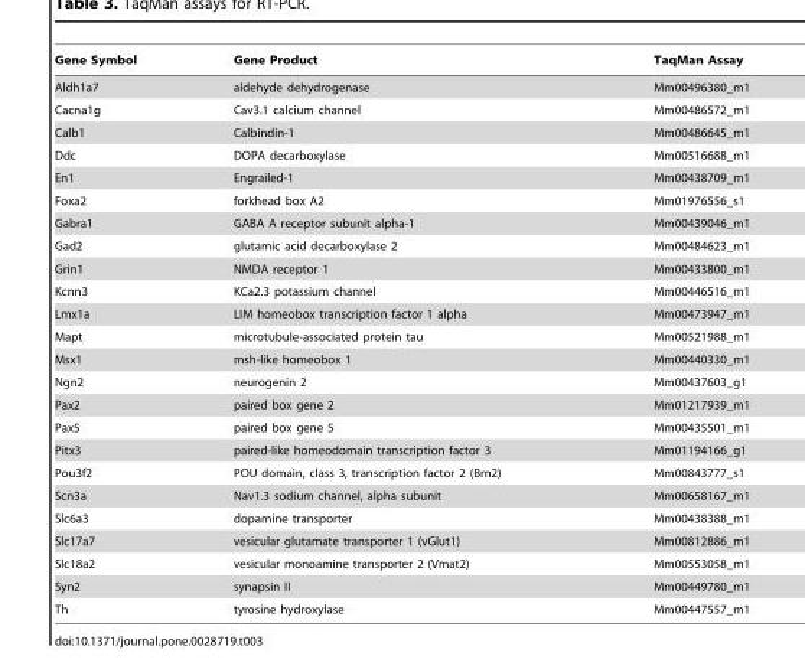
<table><thead><tr><td>Gene Symbol</td><td>Gene Product</td><td>TaqMan Assay</td></tr></thead><tbody><tr><td>Aldh1a7</td><td>aldehyde dehydrogenase</td><td>Mm00496380_m1</td></tr><tr><td>Cacna1g</td><td>Cav3.1 calcium channel</td><td>Mm00486572_m1</td></tr><tr><td>Calb1</td><td>Calbindin-1</td><td>Mm00486645_m1</td></tr><tr><td>Ddc</td><td>DOPA decarboxylase</td><td>Mm00516688_m1</td></tr><tr><td>En1</td><td>Engrailed-1</td><td>Mm00438709_m1</td></tr><tr><td>Foxa2</td><td>forkhead box A2</td><td>Mm01976556_s1</td></tr><tr><td>Gabra1</td><td>GABA A receptor subunit alpha-1</td><td>Mm00439046_m1</td></tr><tr><td>Gad2</td><td>glutamic acid decarboxylase 2</td><td>Mm00484623_m1</td></tr><tr><td>Grin1</td><td>NMDA receptor 1</td><td>Mm00433800_m1</td></tr><tr><td>Kcnn3</td><td>KCa2.3 potassium channel</td><td>Mm00446516_m1</td></tr><tr><td>Lmx1a</td><td>LIM homeobox transcription factor 1 alpha</td><td>Mm00473947_m1</td></tr><tr><td>Mapt</td><td>microtubule-associated protein tau</td><td>Mm00521988_m1</td></tr><tr><td>Msx1</td><td>msh-like homeobox 1</td><td>Mm00440330_m1</td></tr><tr><td>Ngn2</td><td>neurogenin 2</td><td>Mm00437603_g1</td></tr><tr><td>Pax2</td><td>paired box gene 2</td><td>Mm01217939_m1</td></tr><tr><td>Pax5</td><td>paired box gene 5</td><td>Mm00435501_m1</td></tr><tr><td>Pitx3</td><td>paired-like homeodomain transcription factor 3</td><td>Mm01194166_g1</td></tr><tr><td>Pou3f2</td><td>POU domain, class 3, transcription factor 2 (Brn2)</td><td>Mm00843777_s1</td></tr><tr><td>Scn3a</td><td>Nav1.3 sodium channel, alpha subunit</td><td>Mm00658167_m1</td></tr><tr><td>Slc6a3</td><td>dopamine transporter</td><td>Mm00438388_m1</td></tr><tr><td>Slc17a7</td><td>vesicular glutamate transporter 1 (vGlut1)</td><td>Mm00812886_m1</td></tr><tr><td>Slc18a2</td><td>vesicular monoamine transporter 2 (Vmat2)</td><td>Mm00553058_m1</td></tr><tr><td>Syn2</td><td>synapsin II</td><td>Mm00449780_m1</td></tr><tr><td>Th</td><td>tyrosine hydroxylase</td><td>Mm00447557_m1</td></tr></tbody></table>